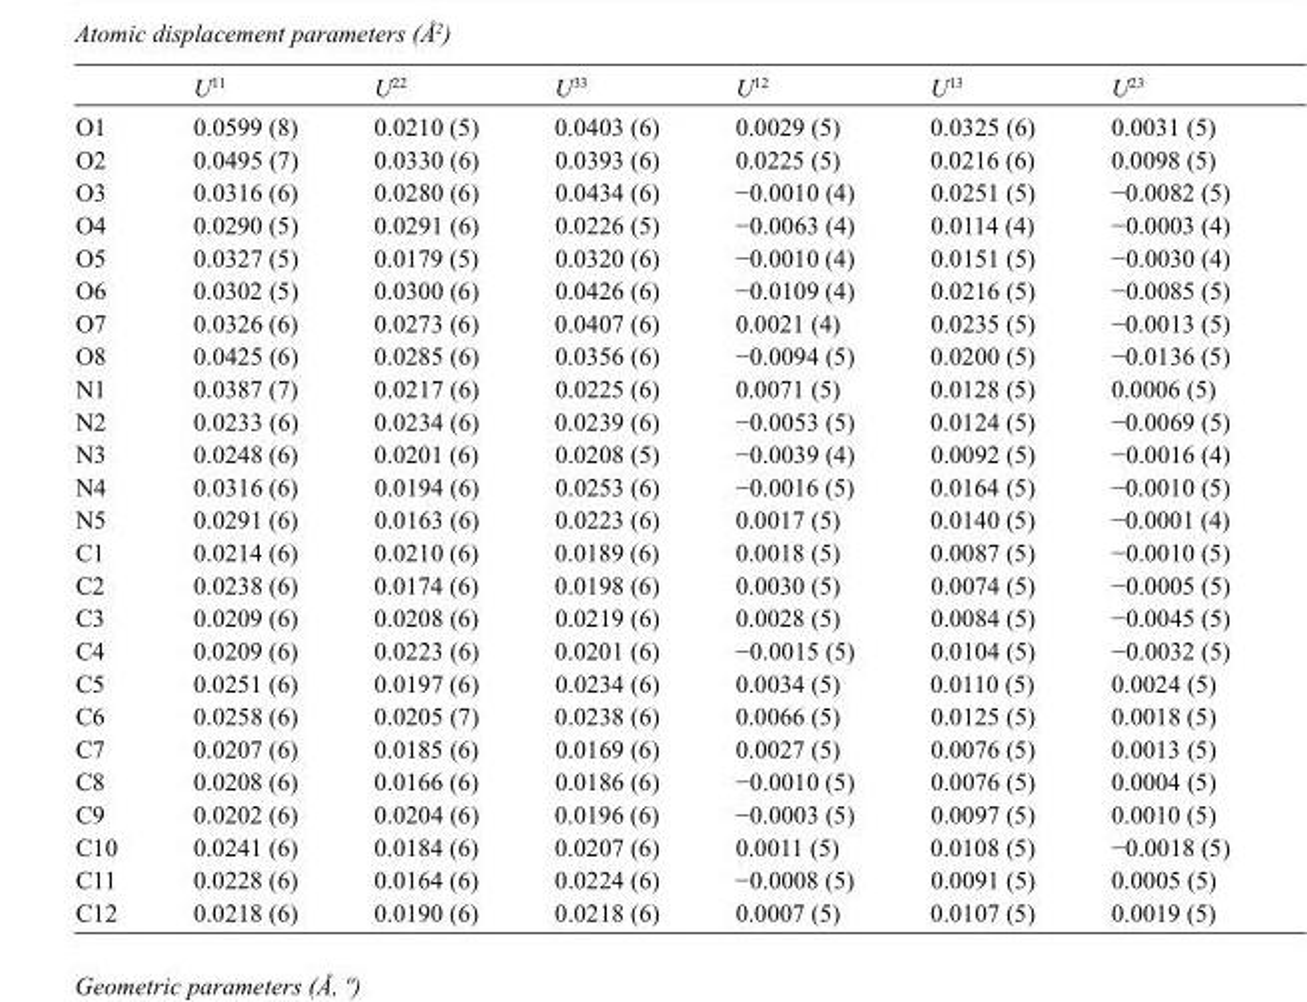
<table><thead><tr><td></td><td>U<sup>11</sup></td><td>U<sup>22</sup></td><td>U<sup>33</sup></td><td>U<sup>12</sup></td><td>U<sup>13</sup></td><td>U<sup>23</sup></td></tr></thead><tbody><tr><td>O1</td><td>0.0599 (8)</td><td>0.0210 (5)</td><td>0.0403 (6)</td><td>0.0029 (5)</td><td>0.0325 (6)</td><td>0.0031 (5)</td></tr><tr><td>O2</td><td>0.0495 (7)</td><td>0.0330 (6)</td><td>0.0393 (6)</td><td>0.0225 (5)</td><td>0.0216 (6)</td><td>0.0098 (5)</td></tr><tr><td>O3</td><td>0.0316 (6)</td><td>0.0280 (6)</td><td>0.0434 (6)</td><td>−0.0010 (4)</td><td>0.0251 (5)</td><td>−0.0082 (5)</td></tr><tr><td>O4</td><td>0.0290 (5)</td><td>0.0291 (6)</td><td>0.0226 (5)</td><td>−0.0063 (4)</td><td>0.0114 (4)</td><td>−0.0003 (4)</td></tr><tr><td>O5</td><td>0.0327 (5)</td><td>0.0179 (5)</td><td>0.0320 (6)</td><td>−0.0010 (4)</td><td>0.0151 (5)</td><td>−0.0030 (4)</td></tr><tr><td>O6</td><td>0.0302 (5)</td><td>0.0300 (6)</td><td>0.0426 (6)</td><td>−0.0109 (4)</td><td>0.0216 (5)</td><td>−0.0085 (5)</td></tr><tr><td>O7</td><td>0.0326 (6)</td><td>0.0273 (6)</td><td>0.0407 (6)</td><td>0.0021 (4)</td><td>0.0235 (5)</td><td>−0.0013 (5)</td></tr><tr><td>O8</td><td>0.0425 (6)</td><td>0.0285 (6)</td><td>0.0356 (6)</td><td>−0.0094 (5)</td><td>0.0200 (5)</td><td>−0.0136 (5)</td></tr><tr><td>N1</td><td>0.0387 (7)</td><td>0.0217 (6)</td><td>0.0225 (6)</td><td>0.0071 (5)</td><td>0.0128 (5)</td><td>0.0006 (5)</td></tr><tr><td>N2</td><td>0.0233 (6)</td><td>0.0234 (6)</td><td>0.0239 (6)</td><td>−0.0053 (5)</td><td>0.0124 (5)</td><td>−0.0069 (5)</td></tr><tr><td>N3</td><td>0.0248 (6)</td><td>0.0201 (6)</td><td>0.0208 (5)</td><td>−0.0039 (4)</td><td>0.0092 (5)</td><td>−0.0016 (4)</td></tr><tr><td>N4</td><td>0.0316 (6)</td><td>0.0194 (6)</td><td>0.0253 (6)</td><td>−0.0016 (5)</td><td>0.0164 (5)</td><td>−0.0010 (5)</td></tr><tr><td>N5</td><td>0.0291 (6)</td><td>0.0163 (6)</td><td>0.0223 (6)</td><td>0.0017 (5)</td><td>0.0140 (5)</td><td>−0.0001 (4)</td></tr><tr><td>C1</td><td>0.0214 (6)</td><td>0.0210 (6)</td><td>0.0189 (6)</td><td>0.0018 (5)</td><td>0.0087 (5)</td><td>−0.0010 (5)</td></tr><tr><td>C2</td><td>0.0238 (6)</td><td>0.0174 (6)</td><td>0.0198 (6)</td><td>0.0030 (5)</td><td>0.0074 (5)</td><td>−0.0005 (5)</td></tr><tr><td>C3</td><td>0.0209 (6)</td><td>0.0208 (6)</td><td>0.0219 (6)</td><td>0.0028 (5)</td><td>0.0084 (5)</td><td>−0.0045 (5)</td></tr><tr><td>C4</td><td>0.0209 (6)</td><td>0.0223 (6)</td><td>0.0201 (6)</td><td>−0.0015 (5)</td><td>0.0104 (5)</td><td>−0.0032 (5)</td></tr><tr><td>C5</td><td>0.0251 (6)</td><td>0.0197 (6)</td><td>0.0234 (6)</td><td>0.0034 (5)</td><td>0.0110 (5)</td><td>0.0024 (5)</td></tr><tr><td>C6</td><td>0.0258 (6)</td><td>0.0205 (7)</td><td>0.0238 (6)</td><td>0.0066 (5)</td><td>0.0125 (5)</td><td>0.0018 (5)</td></tr><tr><td>C7</td><td>0.0207 (6)</td><td>0.0185 (6)</td><td>0.0169 (6)</td><td>0.0027 (5)</td><td>0.0076 (5)</td><td>0.0013 (5)</td></tr><tr><td>C8</td><td>0.0208 (6)</td><td>0.0166 (6)</td><td>0.0186 (6)</td><td>−0.0010 (5)</td><td>0.0076 (5)</td><td>0.0004 (5)</td></tr><tr><td>C9</td><td>0.0202 (6)</td><td>0.0204 (6)</td><td>0.0196 (6)</td><td>−0.0003 (5)</td><td>0.0097 (5)</td><td>0.0010 (5)</td></tr><tr><td>C10</td><td>0.0241 (6)</td><td>0.0184 (6)</td><td>0.0207 (6)</td><td>0.0011 (5)</td><td>0.0108 (5)</td><td>−0.0018 (5)</td></tr><tr><td>C11</td><td>0.0228 (6)</td><td>0.0164 (6)</td><td>0.0224 (6)</td><td>−0.0008 (5)</td><td>0.0091 (5)</td><td>0.0005 (5)</td></tr><tr><td>C12</td><td>0.0218 (6)</td><td>0.0190 (6)</td><td>0.0218 (6)</td><td>0.0007 (5)</td><td>0.0107 (5)</td><td>0.0019 (5)</td></tr></tbody></table>